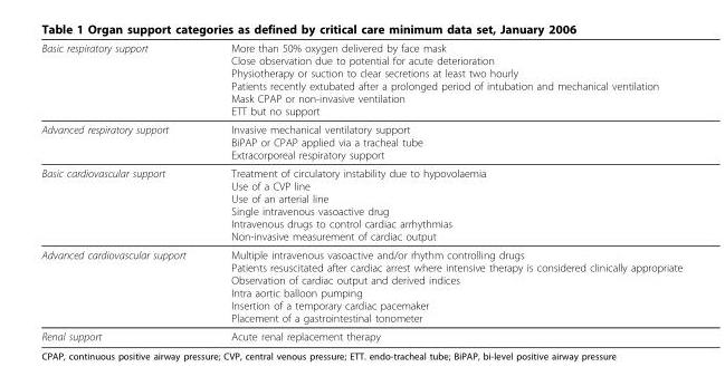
<table><thead><tr><td>Basic respiratory support</td><td>More than 50% oxygen delivered by face mask Close observation due to potential for acute deterioration Physiotherapy or suction to clear secretions at least two hourly Patients recently extubated after a prolonged period of intubation and mechanical ventilation Mask CPAP or non-invasive ventilation ETT but no support</td></tr></thead><tbody><tr><td>Advanced respiratory support</td><td>Invasive mechanical ventilatory support BiPAP or CPAP applied via a tracheal tube Extracorporeal respiratory support</td></tr><tr><td>Basic cardiovascular support</td><td>Treatment of circulatory instability due to hypovolaemia Use of a CVP line Use of an arterial line Single intravenous vasoactive drug Intravenous drugs to control cardiac arrhythmias Non-invasive measurement of cardiac output</td></tr><tr><td>Advanced cardiovascular support</td><td>Multiple intravenous vasoactive and/or rhythm controlling drugs Patients resuscitated after cardiac arrest where intensive therapy is considered clinically appropriate Observation of cardiac output and derived indices Intra aortic balloon pumping Insertion of a temporary cardiac pacemaker Placement of a gastrointestinal tonometer</td></tr><tr><td>Renal support</td><td>Acute renal replacement therapy</td></tr></tbody></table>